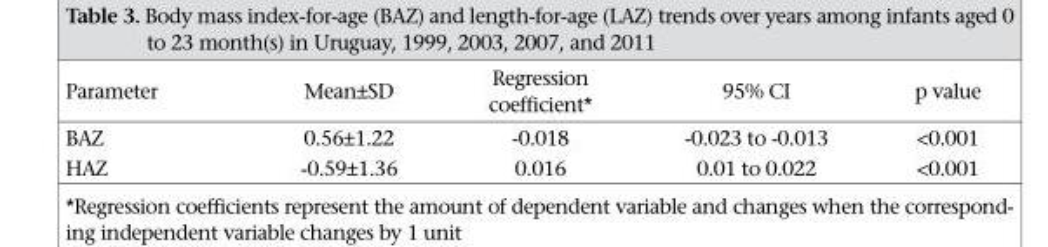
<table><thead><tr><td>Parameter</td><td>Mean±SD</td><td>Regression coefficient*</td><td>95% CI</td><td>p value</td></tr></thead><tbody><tr><td>BAZ</td><td>0.56±1.22</td><td>-0.018</td><td>-0.023 to -0.013</td><td>&lt;0.001</td></tr><tr><td>HAZ</td><td>-0.59±1.36</td><td>0.016</td><td>0.01 to 0.022</td><td>&lt;0.001</td></tr></tbody></table>